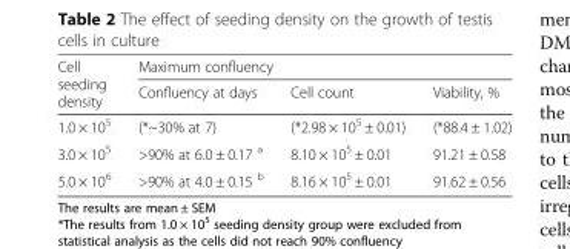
<table><thead><tr><td rowspan="2">Cell seeding density</td><td colspan="3">Maximum confluency</td></tr><tr><td>Confluency at days</td><td>Cell count</td><td>Viability, %</td></tr></thead><tbody><tr><td>1.0 × 10<sup>5</sup></td><td>(*~30% at 7)</td><td>(*2.98 × 10<sup>5</sup> ± 0.01)</td><td>(*88.4 ± 1.02)</td></tr><tr><td>3.0 × 10<sup>5</sup></td><td>&gt;90% at 6.0 ± 0.17 <sup>a</sup></td><td>8.10 × 10<sup>5</sup> ± 0.01</td><td>91.21 ± 0.58</td></tr><tr><td>5.0 × 10<sup>6</sup></td><td>&gt;90% at 4.0 ± 0.15 <sup>b</sup></td><td>8.16 × 10<sup>5</sup> ± 0.01</td><td>91.62 ± 0.56</td></tr></tbody></table>